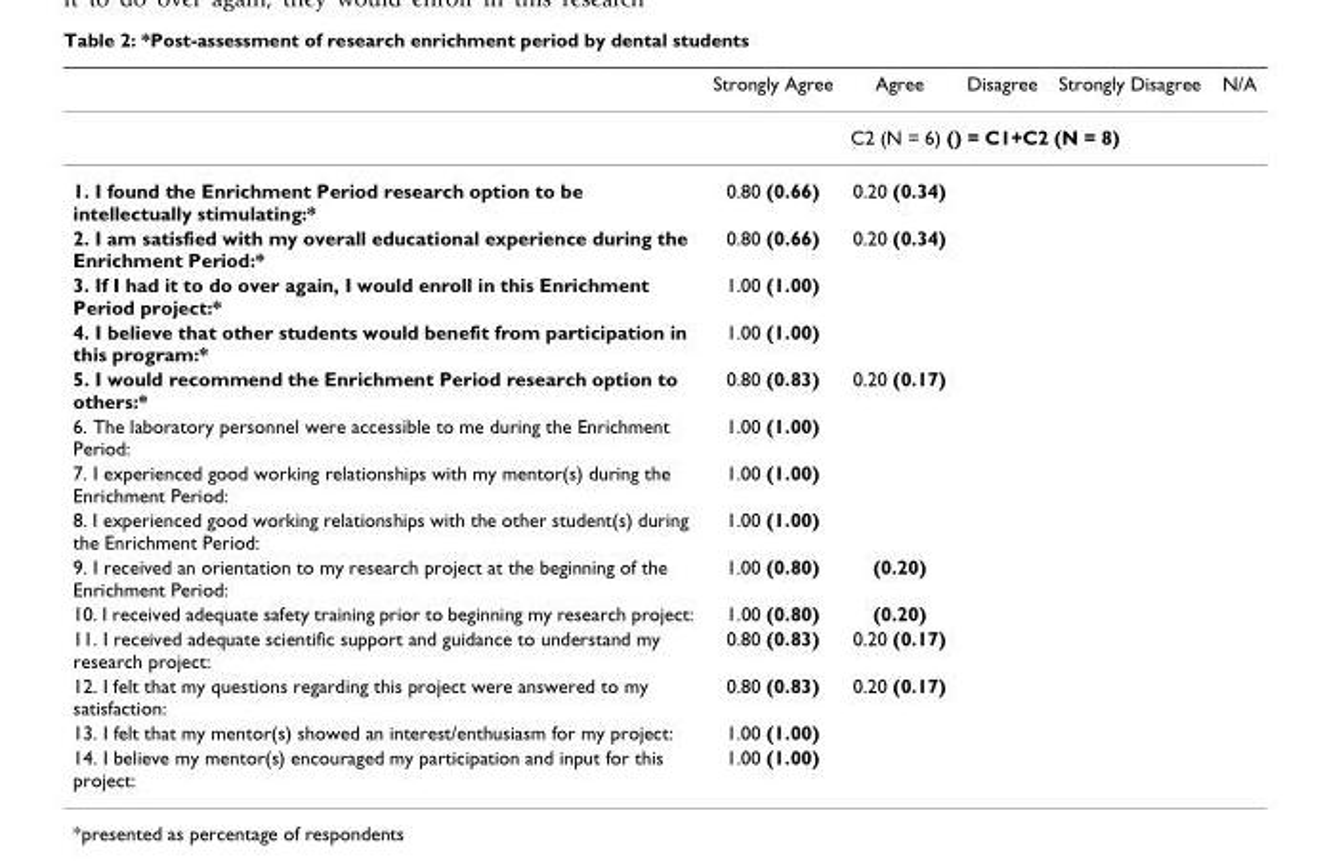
<table><thead><tr><td></td><td>Strongly Agree</td><td>Agree</td><td>Disagree</td><td>Strongly Disagree</td><td>N/A</td></tr></thead><tbody><tr><td></td><td colspan="5">C2 (N = 6) () = C1+C2 (N = 8)</td></tr><tr><td>1. I found the Enrichment Period research option to be intellectually stimulating:*</td><td>0.80 (0.66)</td><td>0.20 (0.34)</td><td></td><td></td><td></td></tr><tr><td>2. I am satisfied with my overall educational experience during the Enrichment Period:*</td><td>0.80 (0.66)</td><td>0.20 (0.34)</td><td></td><td></td><td></td></tr><tr><td>3. If I had it to do over again, I would enroll in this Enrichment Period project:*</td><td>1.00 (1.00)</td><td></td><td></td><td></td><td></td></tr><tr><td>4. I believe that other students would benefit from participation in this program:*</td><td>1.00 (1.00)</td><td></td><td></td><td></td><td></td></tr><tr><td>5. I would recommend the Enrichment Period research option to others:*</td><td>0.80 (0.83)</td><td>0.20 (0.17)</td><td></td><td></td><td></td></tr><tr><td>6. The laboratory personnel were accessible to me during the Enrichment Period:</td><td>1.00 (1.00)</td><td></td><td></td><td></td><td></td></tr><tr><td>7. I experienced good working relationships with my mentor(s) during the Enrichment Period:</td><td>1.00 (1.00)</td><td></td><td></td><td></td><td></td></tr><tr><td>8. I experienced good working relationships with the other student(s) during the Enrichment Period:</td><td>1.00 (1.00)</td><td></td><td></td><td></td><td></td></tr><tr><td>9. I received an orientation to my research project at the beginning of the Enrichment Period:</td><td>1.00 (0.80)</td><td>(0.20)</td><td></td><td></td><td></td></tr><tr><td>10. I received adequate safety training prior to beginning my research project:</td><td>1.00 (0.80)</td><td>(0.20)</td><td></td><td></td><td></td></tr><tr><td>11. I received adequate scientific support and guidance to understand my research project:</td><td>0.80 (0.83)</td><td>0.20 (0.17)</td><td></td><td></td><td></td></tr><tr><td>12. I felt that my questions regarding this project were answered to my satisfaction:</td><td>0.80 (0.83)</td><td>0.20 (0.17)</td><td></td><td></td><td></td></tr><tr><td>13. I felt that my mentor(s) showed an interest/enthusiasm for my project:</td><td>1.00 (1.00)</td><td></td><td></td><td></td><td></td></tr><tr><td>14. I believe my mentor(s) encouraged my participation and input for this project:</td><td>1.00 (1.00)</td><td></td><td></td><td></td><td></td></tr></tbody></table>